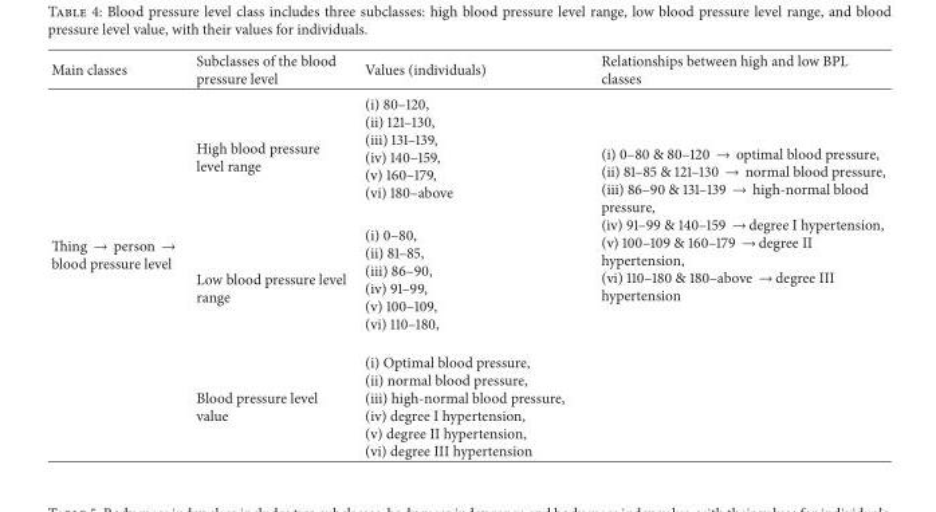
<table><thead><tr><td>Main classes</td><td>Subclasses of the blood pressure level</td><td>Values (individuals)</td><td>Relationships between high and low BPL classes</td></tr></thead><tbody><tr><td rowspan="3">Thing → person → blood pressure level</td><td>High blood pressure level range</td><td>(i) 80–120, (ii) 121–130, (iii) 131–139, (iv) 140–159, (v) 160–179, (vi) 180–above</td><td rowspan="3">(i) 0–80 &amp; 80–120 → optimal blood pressure, (ii) 81–85 &amp; 121–130 → normal blood pressure, (iii) 86–90 &amp; 131–139 → high-normal blood pressure, (iv) 91–99 &amp; 140–159 → degree I hypertension, (v) 100–109 &amp; 160–179 → degree II hypertension, (vi) 110–180 &amp; 180–above → degree III hypertension</td></tr><tr><td>Low blood pressure level range</td><td>(i) 0–80, (ii) 81–85, (iii) 86–90, (iv) 91–99, (v) 100–109, (vi) 110–180,</td></tr><tr><td>Blood pressure level value</td><td>(i) Optimal blood pressure, (ii) normal blood pressure, (iii) high-normal blood pressure, (iv) degree I hypertension, (v) degree II hypertension, (vi) degree III hypertension</td></tr></tbody></table>